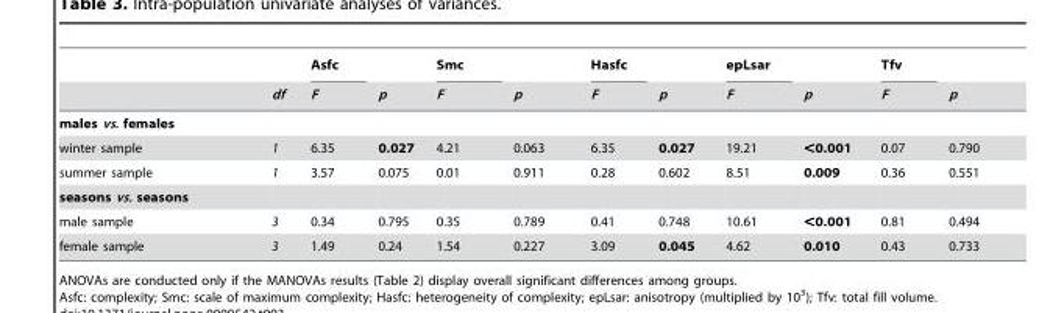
<table><thead><tr><td rowspan="2"></td><td rowspan="2">df</td><td rowspan="2">Asfc F</td><td rowspan="2">p</td><td rowspan="2">Smc F</td><td rowspan="2">p</td><td rowspan="2">Hasfc F</td><td rowspan="2">p</td><td rowspan="2">epLsar F</td><td rowspan="2">p</td><td rowspan="2">Tfv F</td><td rowspan="2">p</td></tr><tr></tr></thead><tbody><tr><td colspan="12">males vs. females</td></tr><tr><td>winter sample</td><td>1</td><td>6.35</td><td>0.027</td><td>4.21</td><td>0.063</td><td>6.35</td><td>0.027</td><td>19.21</td><td>&lt;0.001</td><td>0.07</td><td>0.790</td></tr><tr><td>summer sample</td><td>1</td><td>3.57</td><td>0.075</td><td>0.01</td><td>0.911</td><td>0.28</td><td>0.602</td><td>8.51</td><td>0.009</td><td>0.36</td><td>0.551</td></tr><tr><td colspan="12">seasons vs. seasons</td></tr><tr><td>male sample</td><td>3</td><td>0.34</td><td>0.795</td><td>0.35</td><td>0.789</td><td>0.41</td><td>0.748</td><td>10.61</td><td>&lt;0.001</td><td>0.81</td><td>0.494</td></tr><tr><td>female sample</td><td>3</td><td>1.49</td><td>0.24</td><td>1.54</td><td>0.227</td><td>3.09</td><td>0.045</td><td>4.62</td><td>0.010</td><td>0.43</td><td>0.733</td></tr></tbody></table>